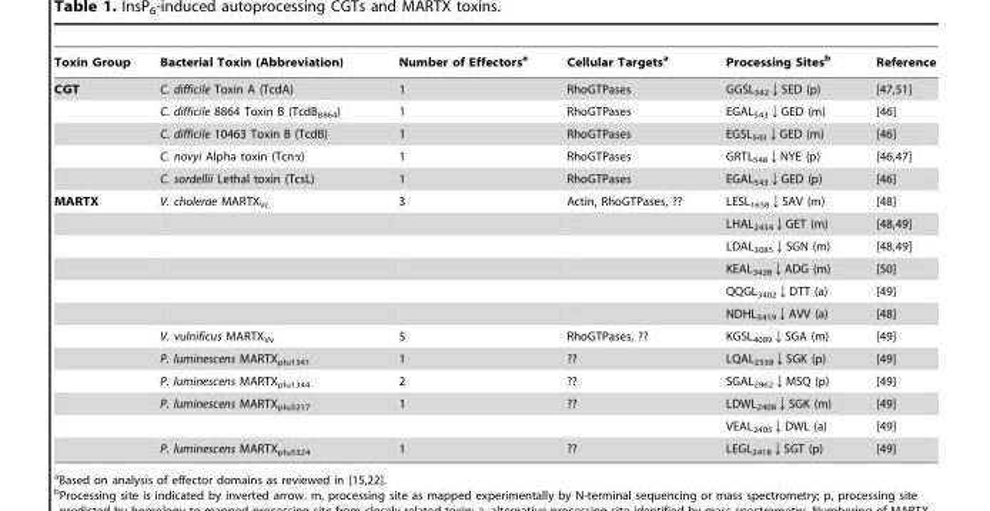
<table><thead><tr><td>Toxin Group</td><td>Bacterial Toxin (Abbreviation)</td><td>Number of Effectors<sup>a</sup></td><td>Cellular Targets<sup>a</sup></td><td>Processing Sites<sup>b</sup></td><td>Reference</td></tr></thead><tbody><tr><td rowspan="5">CGT</td><td>C. difficile Toxin A (TcdA)</td><td>1</td><td>RhoGTPases</td><td>GGSL<sub>542</sub>↓SED (p)</td><td>[47,51]</td></tr><tr><td>C. difficile 8864 Toxin B (TcdB<sub>8864</sub>)</td><td>1</td><td>RhoGTPases</td><td>EGAL<sub>543</sub>↓GED (m)</td><td>[46]</td></tr><tr><td>C. difficile 10463 Toxin B (TcdB)</td><td>1</td><td>RhoGTPases</td><td>EGSL<sub>543</sub>↓GED (m)</td><td>[46]</td></tr><tr><td>C. novyi Alpha toxin (Tcnα)</td><td>1</td><td>RhoGTPases</td><td>GRTL<sub>548</sub>↓NYE (p)</td><td>[46,47]</td></tr><tr><td>C. sordellii Lethal toxin (TcsL)</td><td>1</td><td>RhoGTPases</td><td>EGAL<sub>543</sub>↓GED (p)</td><td>[46]</td></tr><tr><td rowspan="12">MARTX</td><td>V. cholerae MARTX<sub>Vc</sub></td><td>3</td><td>Actin, RhoGTPases, ??</td><td>LESL<sub>1658</sub>↓SAV (m)</td><td>[48]</td></tr><tr><td></td><td></td><td></td><td>LHAL<sub>2434</sub>↓GET (m)</td><td>[48,49]</td></tr><tr><td></td><td></td><td></td><td>LDAL<sub>3085</sub>↓SGN (m)</td><td>[48,49]</td></tr><tr><td></td><td></td><td></td><td>KEAL<sub>3428</sub>↓ADG (m)</td><td>[50]</td></tr><tr><td></td><td></td><td></td><td>QQGL<sub>3402</sub>↓DTT (a)</td><td>[49]</td></tr><tr><td></td><td></td><td></td><td>NDHL<sub>3419</sub>↓AVV (a)</td><td>[48]</td></tr><tr><td>V. vulnificus MARTX<sub>Vv</sub></td><td>5</td><td>RhoGTPases, ??</td><td>KGSL<sub>4089</sub>↓SGA (m)</td><td>[49]</td></tr><tr><td>P. luminescens MARTX<sub>plu1341</sub></td><td>1</td><td>??</td><td>LQAL<sub>2538</sub>↓SGK (p)</td><td>[49]</td></tr><tr><td>P. luminescens MARTX<sub>plu1344</sub></td><td>2</td><td>??</td><td>SGAL<sub>2962</sub>↓MSQ (p)</td><td>[49]</td></tr><tr><td>P. luminescens MARTX<sub>plu3217</sub></td><td>1</td><td>??</td><td>LDWL<sub>2408</sub>↓SGK (m)</td><td>[49]</td></tr><tr><td></td><td></td><td></td><td>VEAL<sub>2405</sub>↓DWL (a)</td><td>[49]</td></tr><tr><td>P. luminescens MARTX<sub>plu3324</sub></td><td>1</td><td>??</td><td>LEGL<sub>2418</sub>↓SGT (p)</td><td>[49]</td></tr></tbody></table>